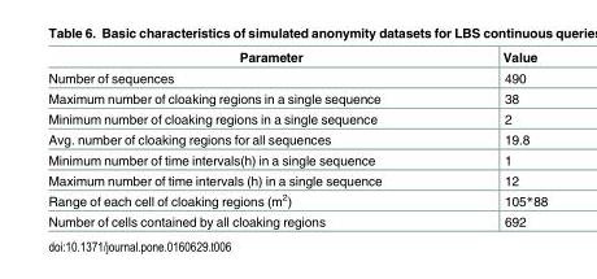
<table><thead><tr><td>Parameter</td><td>Value</td></tr></thead><tbody><tr><td>Number of sequences</td><td>490</td></tr><tr><td>Maximum number of cloaking regions in a single sequence</td><td>38</td></tr><tr><td>Minimum number of cloaking regions in a single sequence</td><td>2</td></tr><tr><td>Avg. number of cloaking regions for all sequences</td><td>19.8</td></tr><tr><td>Minimum number of time intervals(h) in a single sequence</td><td>1</td></tr><tr><td>Maximum number of time intervals (h) in a single sequence</td><td>12</td></tr><tr><td>Range of each cell of cloaking regions (m<sup>2</sup>)</td><td>105*88</td></tr><tr><td>Number of cells contained by all cloaking regions</td><td>692</td></tr></tbody></table>